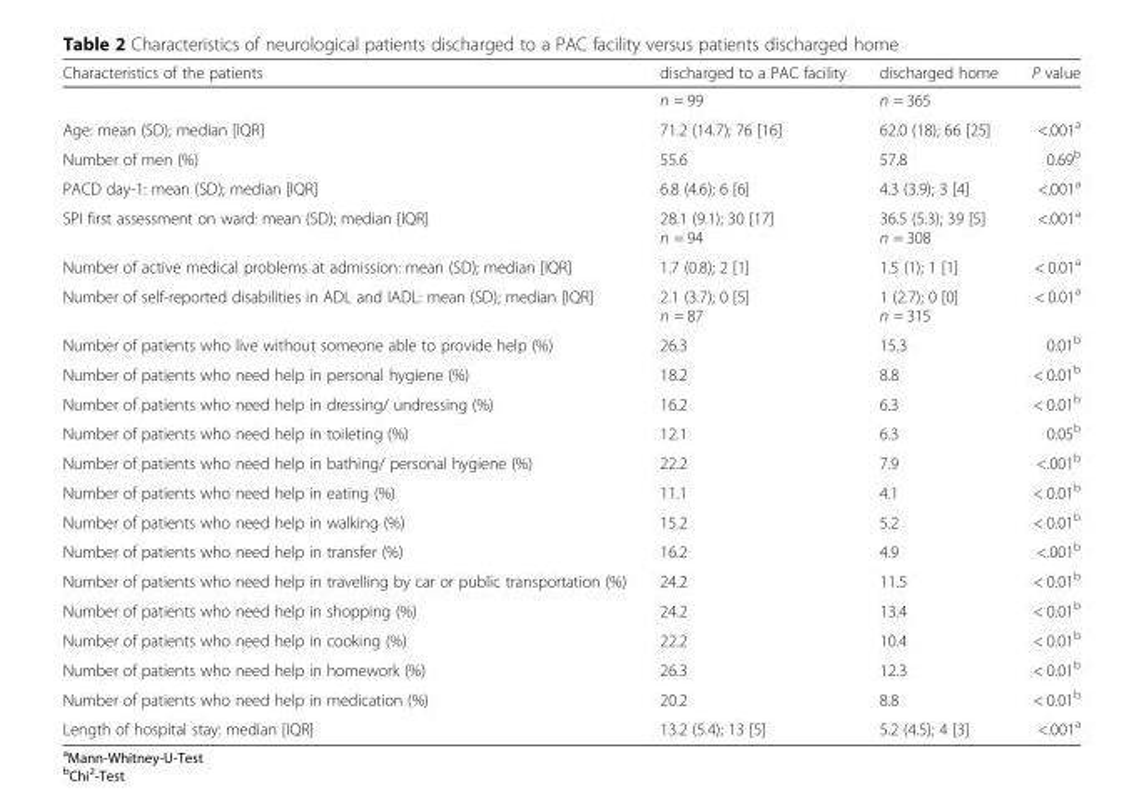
<table><thead><tr><td>Characteristics of the patients</td><td>discharged to a PAC facility</td><td>discharged home</td><td>P value</td></tr></thead><tbody><tr><td></td><td>n = 99</td><td>n = 365</td><td></td></tr><tr><td>Age: mean (SD); median [IQR]</td><td>71.2 (14.7); 76 [16]</td><td>62.0 (18); 66 [25]</td><td>&lt;.001<sup>a</sup></td></tr><tr><td>Number of men (%)</td><td>55.6</td><td>57.8</td><td>0.69<sup>b</sup></td></tr><tr><td>PACD day-1: mean (SD); median [IQR]</td><td>6.8 (4.6); 6 [6]</td><td>4.3 (3.9); 3 [4]</td><td>&lt;.001<sup>a</sup></td></tr><tr><td>SPI first assessment on ward: mean (SD); median [IQR]</td><td>28.1 (9.1); 30 [17] n = 94</td><td>36.5 (5.3); 39 [5] n = 308</td><td>&lt;.001<sup>a</sup></td></tr><tr><td>Number of active medical problems at admission: mean (SD); median [IQR]</td><td>1.7 (0.8); 2 [1]</td><td>1.5 (1); 1 [1]</td><td>&lt; 0.01<sup>a</sup></td></tr><tr><td>Number of self-reported disabilities in ADL and IADL: mean (SD); median [IQR]</td><td>2.1 (3.7); 0 [5] n = 87</td><td>1 (2.7); 0 [0] n = 315</td><td>&lt; 0.01<sup>a</sup></td></tr><tr><td>Number of patients who live without someone able to provide help (%)</td><td>26.3</td><td>15.3</td><td>0.01<sup>b</sup></td></tr><tr><td>Number of patients who need help in personal hygiene (%)</td><td>18.2</td><td>8.8</td><td>&lt; 0.01<sup>b</sup></td></tr><tr><td>Number of patients who need help in dressing/ undressing (%)</td><td>16.2</td><td>6.3</td><td>&lt; 0.01<sup>b</sup></td></tr><tr><td>Number of patients who need help in toileting (%)</td><td>12.1</td><td>6.3</td><td>0.05<sup>b</sup></td></tr><tr><td>Number of patients who need help in bathing/ personal hygiene (%)</td><td>22.2</td><td>7.9</td><td>&lt;.001<sup>b</sup></td></tr><tr><td>Number of patients who need help in eating (%)</td><td>11.1</td><td>4.1</td><td>&lt; 0.01<sup>b</sup></td></tr><tr><td>Number of patients who need help in walking (%)</td><td>15.2</td><td>5.2</td><td>&lt; 0.01<sup>b</sup></td></tr><tr><td>Number of patients who need help in transfer (%)</td><td>16.2</td><td>4.9</td><td>&lt;.001<sup>b</sup></td></tr><tr><td>Number of patients who need help in travelling by car or public transportation (%)</td><td>24.2</td><td>11.5</td><td>&lt; 0.01<sup>b</sup></td></tr><tr><td>Number of patients who need help in shopping (%)</td><td>24.2</td><td>13.4</td><td>&lt; 0.01<sup>b</sup></td></tr><tr><td>Number of patients who need help in cooking (%)</td><td>22.2</td><td>10.4</td><td>&lt; 0.01<sup>b</sup></td></tr><tr><td>Number of patients who need help in homework (%)</td><td>26.3</td><td>12.3</td><td>&lt; 0.01<sup>b</sup></td></tr><tr><td>Number of patients who need help in medication (%)</td><td>20.2</td><td>8.8</td><td>&lt; 0.01<sup>b</sup></td></tr><tr><td>Length of hospital stay: median [IQR]</td><td>13.2 (5.4); 13 [5]</td><td>5.2 (4.5); 4 [3]</td><td>&lt;.001<sup>a</sup></td></tr></tbody></table>